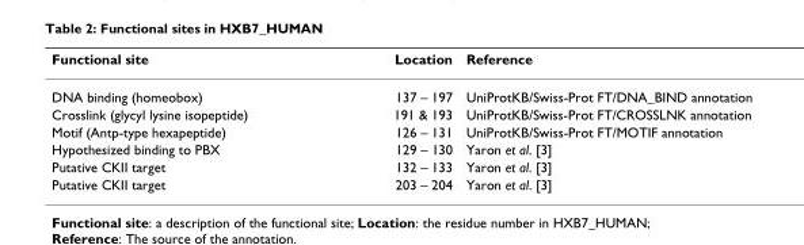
<table><thead><tr><td>Functional site</td><td>Location</td><td>Reference</td></tr></thead><tbody><tr><td>DNA binding (homeobox)</td><td>137 – 197</td><td>UniProtKB/Swiss-Prot FT/DNA_BIND annotation</td></tr><tr><td>Crosslink (glycyl lysine isopeptide)</td><td>191 &amp; 193</td><td>UniProtKB/Swiss-Prot FT/CROSSLNK annotation</td></tr><tr><td>Motif (Antp-type hexapeptide)</td><td>126 – 131</td><td>UniProtKB/Swiss-Prot FT/MOTIF annotation</td></tr><tr><td>Hypothesized binding to PBX</td><td>129 – 130</td><td>Yaron et al. [3]</td></tr><tr><td>Putative CKII target</td><td>132 – 133</td><td>Yaron et al. [3]</td></tr><tr><td>Putative CKII target</td><td>203 – 204</td><td>Yaron et al. [3]</td></tr></tbody></table>